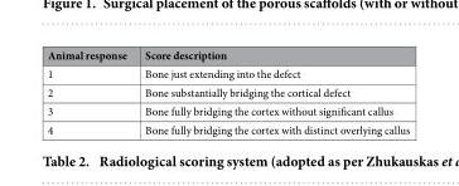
<table><thead><tr><td>Animal response</td><td>Score description</td></tr></thead><tbody><tr><td>1</td><td>Bone just extending into the defect</td></tr><tr><td>2</td><td>Bone substantially bridging the cortical defect</td></tr><tr><td>3</td><td>Bone fully bridging the cortex without significant callus</td></tr><tr><td>4</td><td>Bone fully bridging the cortex with distinct overlying callus</td></tr></tbody></table>